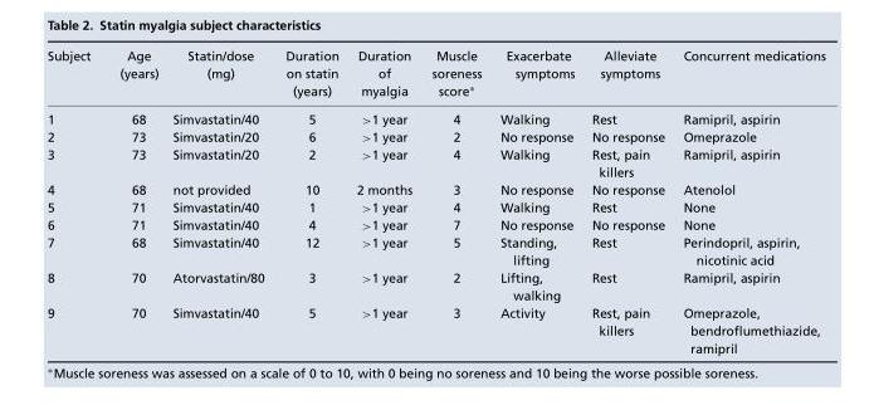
<table><thead><tr><td>Subject</td><td>Age (years)</td><td>Statin/dose (mg)</td><td>Duration on statin (years)</td><td>Duration of myalgia</td><td>Muscle soreness score∗</td><td>Exacerbate symptoms</td><td>Alleviate symptoms</td><td>Concurrent medications</td></tr></thead><tbody><tr><td>1</td><td>68</td><td>Simvastatin/40</td><td>5</td><td>&gt;1 year</td><td>4</td><td>Walking</td><td>Rest</td><td>Ramipril, aspirin</td></tr><tr><td>2</td><td>73</td><td>Simvastatin/20</td><td>6</td><td>&gt;1 year</td><td>2</td><td>No response</td><td>No response</td><td>Omeprazole</td></tr><tr><td rowspan="2">3</td><td>73</td><td>Simvastatin/20</td><td>2</td><td>&gt;1 year</td><td>4</td><td>Walking</td><td>Rest, pain</td><td>Ramipril, aspirin</td></tr><tr><td></td><td></td><td></td><td></td><td></td><td></td><td>killers</td><td></td></tr><tr><td>4</td><td>68</td><td>not provided</td><td>10</td><td>2 months</td><td>3</td><td>No response</td><td>No response</td><td>Atenolol</td></tr><tr><td>5</td><td>71</td><td>Simvastatin/40</td><td>1</td><td>&gt;1 year</td><td>4</td><td>Walking</td><td>Rest</td><td>None</td></tr><tr><td>6</td><td>71</td><td>Simvastatin/40</td><td>4</td><td>&gt;1 year</td><td>7</td><td>No response</td><td>No response</td><td>None</td></tr><tr><td>7</td><td>68</td><td>Simvastatin/40</td><td>12</td><td>&gt;1 year</td><td>5</td><td>Standing, lifting</td><td>Rest</td><td>Perindopril, aspirin, nicotinic acid</td></tr><tr><td>8</td><td>70</td><td>Atorvastatin/80</td><td>3</td><td>&gt;1 year</td><td>2</td><td>Lifting, walking</td><td>Rest</td><td>Ramipril, aspirin</td></tr><tr><td rowspan="3">9</td><td>70</td><td>Simvastatin/40</td><td>5</td><td>&gt;1 year</td><td>3</td><td>Activity</td><td>Rest, pain</td><td>Omeprazole,</td></tr><tr><td></td><td></td><td></td><td></td><td></td><td></td><td>killers</td><td>bendroflumethiazide,</td></tr><tr><td></td><td></td><td></td><td></td><td></td><td></td><td></td><td>ramipril</td></tr></tbody></table>